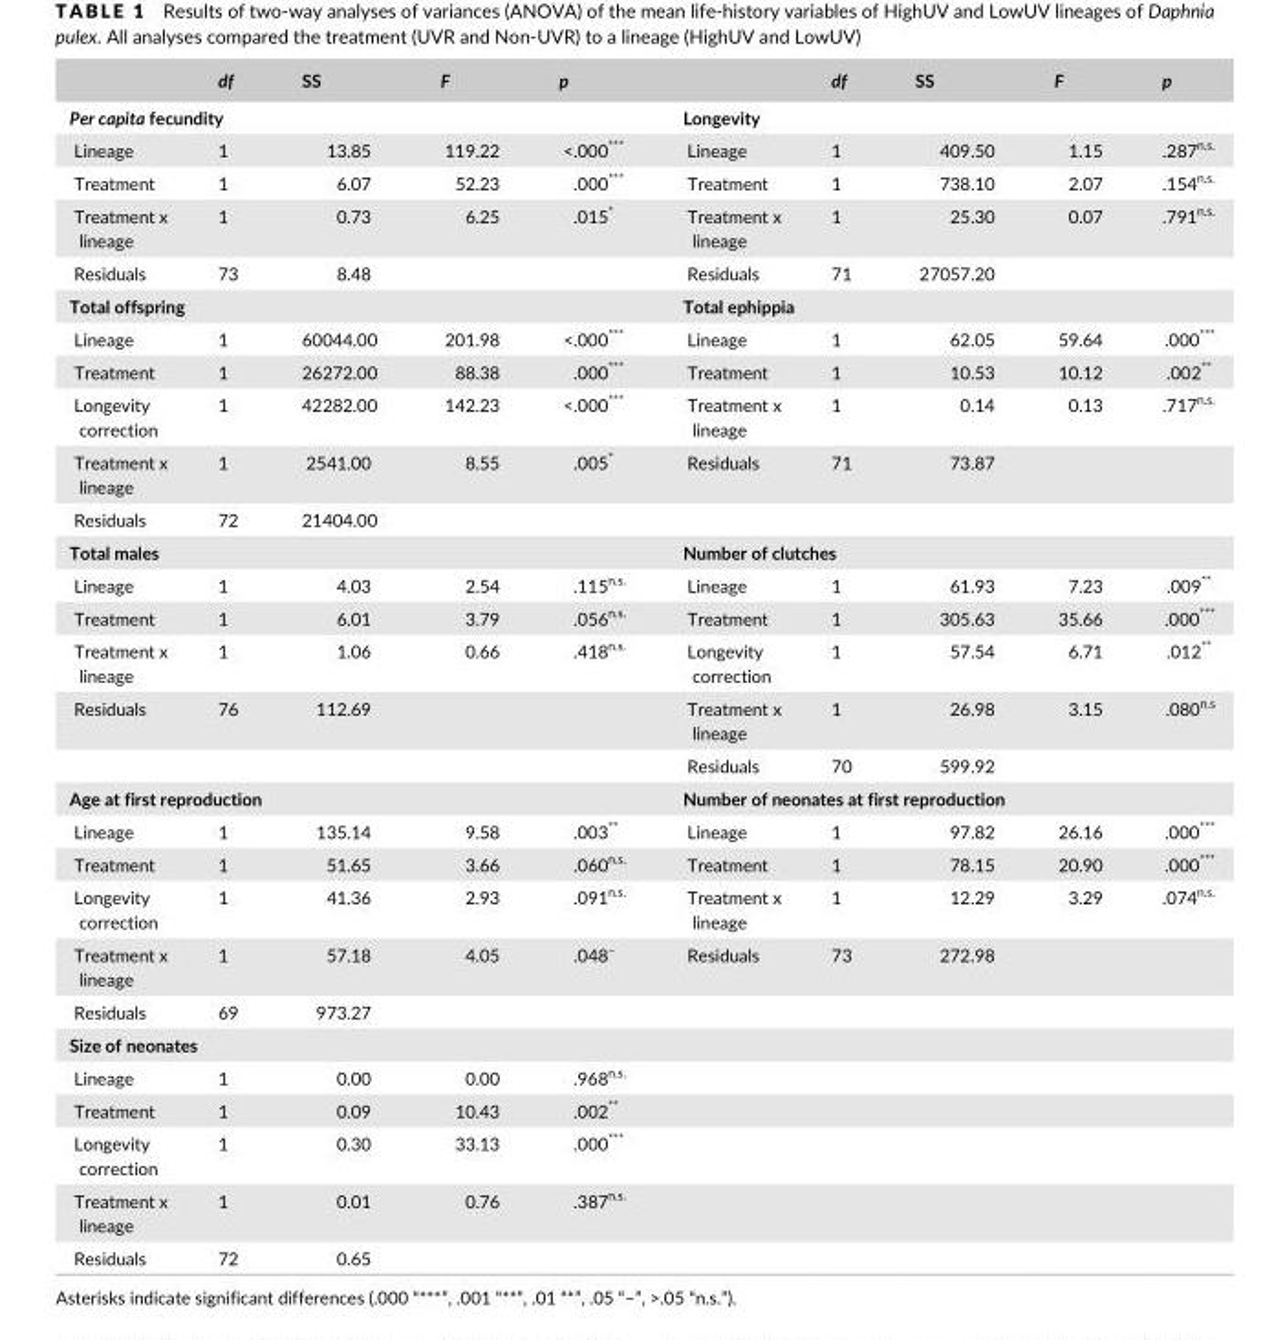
<table><thead><tr><td></td><td>df</td><td>SS</td><td>F</td><td>p</td><td></td><td>df</td><td>SS</td><td>F</td><td>p</td></tr></thead><tbody><tr><td colspan="5">Per capita fecundity</td><td colspan="5">Longevity</td></tr><tr><td>Lineage</td><td>1</td><td>13.85</td><td>119.22</td><td>&lt;.000***</td><td>Lineage</td><td>1</td><td>409.50</td><td>1.15</td><td>.287n.s.</td></tr><tr><td>Treatment</td><td>1</td><td>6.07</td><td>52.23</td><td>.000***</td><td>Treatment</td><td>1</td><td>738.10</td><td>2.07</td><td>.154n.s.</td></tr><tr><td>Treatment x lineage</td><td>1</td><td>0.73</td><td>6.25</td><td>.015*</td><td>Treatment x lineage</td><td>1</td><td>25.30</td><td>0.07</td><td>.791n.s.</td></tr><tr><td>Residuals</td><td>73</td><td>8.48</td><td></td><td></td><td>Residuals</td><td>71</td><td>27057.20</td><td></td><td></td></tr><tr><td colspan="5">Total offspring</td><td colspan="5">Total ephippia</td></tr><tr><td>Lineage</td><td>1</td><td>60044.00</td><td>201.98</td><td>&lt;.000***</td><td>Lineage</td><td>1</td><td>62.05</td><td>59.64</td><td>.000***</td></tr><tr><td>Treatment</td><td>1</td><td>26272.00</td><td>88.38</td><td>.000***</td><td>Treatment</td><td>1</td><td>10.53</td><td>10.12</td><td>.002**</td></tr><tr><td>Longevity correction</td><td>1</td><td>42282.00</td><td>142.23</td><td>&lt;.000***</td><td>Treatment x lineage</td><td>1</td><td>0.14</td><td>0.13</td><td>.717n.s.</td></tr><tr><td>Treatment x lineage</td><td>1</td><td>2541.00</td><td>8.55</td><td>.005*</td><td>Residuals</td><td>71</td><td>73.87</td><td></td><td></td></tr><tr><td>Residuals</td><td>72</td><td>21404.00</td><td></td><td></td><td></td><td></td><td></td><td></td><td></td></tr><tr><td colspan="5">Total males</td><td colspan="5">Number of clutches</td></tr><tr><td>Lineage</td><td>1</td><td>4.03</td><td>2.54</td><td>.115n.s.</td><td>Lineage</td><td>1</td><td>61.93</td><td>7.23</td><td>.009**</td></tr><tr><td>Treatment</td><td>1</td><td>6.01</td><td>3.79</td><td>.056n.s.</td><td>Treatment</td><td>1</td><td>305.63</td><td>35.66</td><td>.000***</td></tr><tr><td>Treatment x lineage</td><td>1</td><td>1.06</td><td>0.66</td><td>.418n.s.</td><td>Longevity correction</td><td>1</td><td>57.54</td><td>6.71</td><td>.012**</td></tr><tr><td rowspan="2">Residuals</td><td>76</td><td>112.69</td><td></td><td></td><td>Treatment x lineage</td><td>1</td><td>26.98</td><td>3.15</td><td>.080<sup>n.s</sup></td></tr><tr><td></td><td></td><td></td><td></td><td>Residuals</td><td>70</td><td>599.92</td><td></td><td></td></tr><tr><td colspan="5">Age at first reproduction</td><td colspan="5">Number of neonates at first reproduction</td></tr><tr><td>Lineage</td><td>1</td><td>135.14</td><td>9.58</td><td>.003**</td><td>Lineage</td><td>1</td><td>97.82</td><td>26.16</td><td>.000***</td></tr><tr><td>Treatment</td><td>1</td><td>51.65</td><td>3.66</td><td>.060n.s.</td><td>Treatment</td><td>1</td><td>78.15</td><td>20.90</td><td>.000***</td></tr><tr><td>Longevity correction</td><td>1</td><td>41.36</td><td>2.93</td><td>.091n.s.</td><td>Treatment x lineage</td><td>1</td><td>12.29</td><td>3.29</td><td>.074n.s.</td></tr><tr><td>Treatment x lineage</td><td>1</td><td>57.18</td><td>4.05</td><td>.048–</td><td>Residuals</td><td>73</td><td>272.98</td><td></td><td></td></tr><tr><td>Residuals</td><td>69</td><td>973.27</td><td></td><td></td><td></td><td></td><td></td><td></td><td></td></tr><tr><td colspan="10">Size of neonates</td></tr><tr><td>Lineage</td><td>1</td><td>0.00</td><td>0.00</td><td>.968n.s.</td><td></td><td></td><td></td><td></td><td></td></tr><tr><td>Treatment</td><td>1</td><td>0.09</td><td>10.43</td><td>.002**</td><td></td><td></td><td></td><td></td><td></td></tr><tr><td>Longevity correction</td><td>1</td><td>0.30</td><td>33.13</td><td>.000***</td><td></td><td></td><td></td><td></td><td></td></tr><tr><td>Treatment x lineage</td><td>1</td><td>0.01</td><td>0.76</td><td>.387n.s.</td><td></td><td></td><td></td><td></td><td></td></tr><tr><td>Residuals</td><td>72</td><td>0.65</td><td></td><td></td><td></td><td></td><td></td><td></td><td></td></tr></tbody></table>